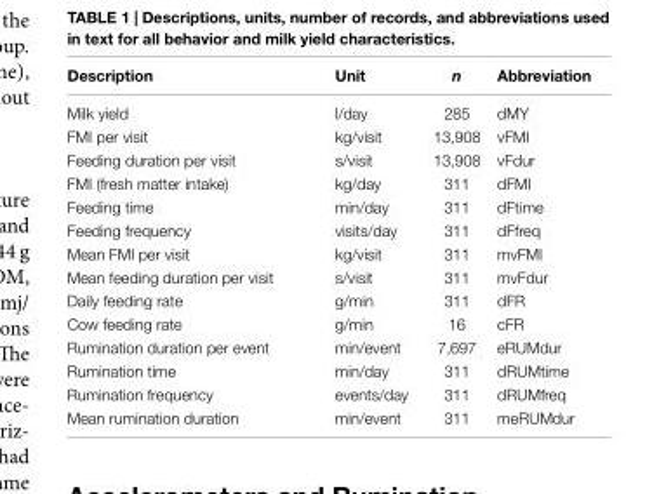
<table><thead><tr><td>Description</td><td>Unit</td><td>n</td><td>abbreviation</td></tr></thead><tbody><tr><td>Milk yield</td><td>l/day</td><td>285</td><td>dMY</td></tr><tr><td>FMI per visit</td><td>kg/visit</td><td>13,908</td><td>vFMI</td></tr><tr><td>Feeding duration per visit</td><td>s/visit</td><td>13,908</td><td>vFdur</td></tr><tr><td>FMI (fresh matter intake)</td><td>kg/day</td><td>311</td><td>dFMI</td></tr><tr><td>Feeding time</td><td>min/day</td><td>311</td><td>dFtime</td></tr><tr><td>Feeding frequency</td><td>visits/day</td><td>311</td><td>dFfreq</td></tr><tr><td>Mean FMI per visit</td><td>kg/visit</td><td>311</td><td>mvFMI</td></tr><tr><td>Mean feeding duration per visit</td><td>s/visit</td><td>311</td><td>mvFdur</td></tr><tr><td>Daily feeding rate</td><td>g/min</td><td>311</td><td>dFR</td></tr><tr><td>Cow feeding rate</td><td>g/min</td><td>16</td><td>cFR</td></tr><tr><td>Rumination duration per event</td><td>min/event</td><td>7,697</td><td>eRUMdur</td></tr><tr><td>Rumination time</td><td>min/day</td><td>311</td><td>dRUMtime</td></tr><tr><td>Rumination frequency</td><td>events/day</td><td>311</td><td>dRUMfreq</td></tr><tr><td>Mean rumination duration</td><td>min/event</td><td>311</td><td>meRUMdur</td></tr></tbody></table>